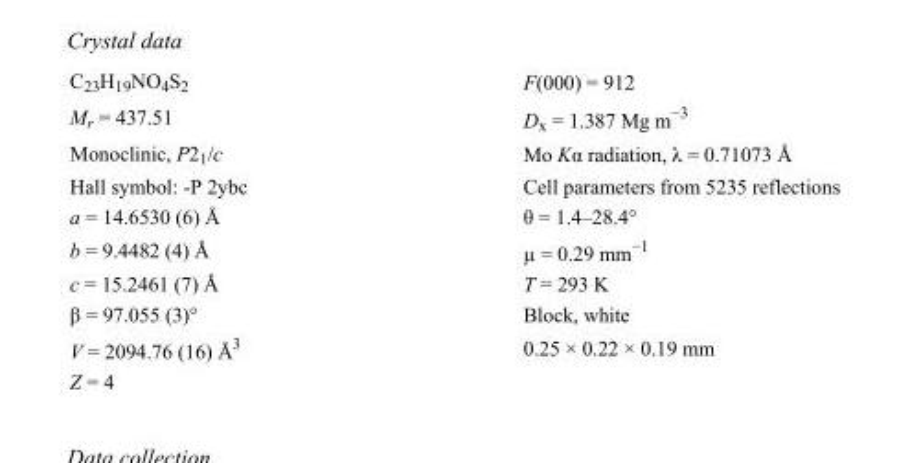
<table><tbody><tr><td>C<sub>23</sub>H<sub>19</sub>NO<sub>4</sub>S<sub>2</sub></td><td>F(000) = 912</td></tr><tr><td>M<sub>r</sub> = 437.51</td><td>D<sub>x</sub> = 1.387 Mg m<sup>−3</sup></td></tr><tr><td>Monoclinic, P2<sub>1</sub>/c</td><td>Mo Kα radiation, λ = 0.71073 Å</td></tr><tr><td>Hall symbol: -P 2ybc</td><td>Cell parameters from 5235 reflections</td></tr><tr><td>a = 14.6530 (6) Å</td><td>θ = 1.4–28.4°</td></tr><tr><td>b = 9.4482 (4) Å</td><td>µ = 0.29 mm<sup>−1</sup></td></tr><tr><td>c = 15.2461 (7) Å</td><td>T = 293 K</td></tr><tr><td>β = 97.055 (3)°</td><td>Block, white</td></tr><tr><td>V = 2094.76 (16) Å<sup>3</sup></td><td>0.25 × 0.22 × 0.19 mm</td></tr><tr><td>Z = 4</td><td></td></tr></tbody></table>